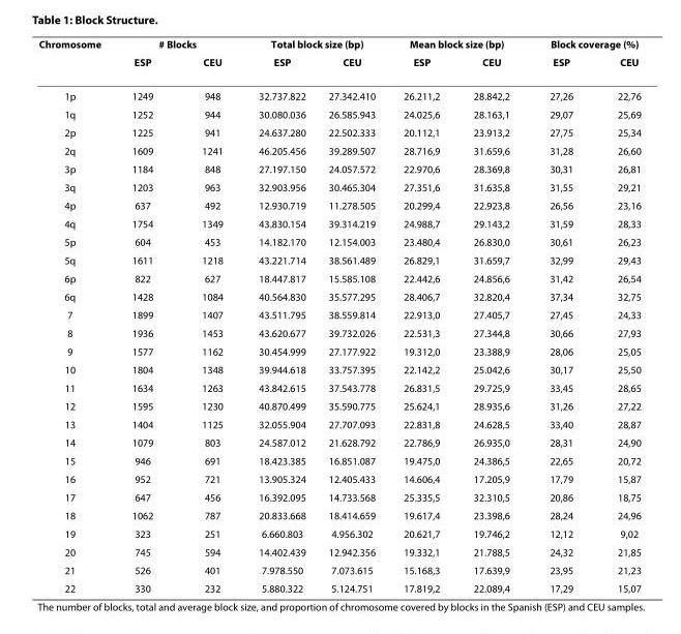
<table><thead><tr><td rowspan="2">Chromosome</td><td colspan="2"># Blocks</td><td colspan="2">Total block size (bp)</td><td colspan="2">Mean block size (bp)</td><td colspan="2">Block coverage (%)</td></tr><tr><td>ESP</td><td>CEU</td><td>ESP</td><td>CEU</td><td>ESP</td><td>CEU</td><td>ESP</td><td>CEU</td></tr></thead><tbody><tr><td>1p</td><td>1249</td><td>948</td><td>32.737.822</td><td>27.342.410</td><td>26.211,2</td><td>28.842,2</td><td>27,26</td><td>22,76</td></tr><tr><td>1q</td><td>1252</td><td>944</td><td>30.080.036</td><td>26.585.943</td><td>24.025,6</td><td>28.163,1</td><td>29,07</td><td>25,69</td></tr><tr><td>2p</td><td>1225</td><td>941</td><td>24.637.280</td><td>22.502.333</td><td>20.112,1</td><td>23.913,2</td><td>27,75</td><td>25,34</td></tr><tr><td>2q</td><td>1609</td><td>1241</td><td>46.205.456</td><td>39.289.507</td><td>28.716,9</td><td>31.659,6</td><td>31,28</td><td>26,60</td></tr><tr><td>3p</td><td>1184</td><td>848</td><td>27.197.150</td><td>24.057.572</td><td>22.970,6</td><td>28.369,8</td><td>30,31</td><td>26,81</td></tr><tr><td>3q</td><td>1203</td><td>963</td><td>32.903.956</td><td>30.465.304</td><td>27.351,6</td><td>31.635,8</td><td>31,55</td><td>29,21</td></tr><tr><td>4p</td><td>637</td><td>492</td><td>12.930.719</td><td>11.278.505</td><td>20.299,4</td><td>22.923,8</td><td>26,56</td><td>23,16</td></tr><tr><td>4q</td><td>1754</td><td>1349</td><td>43.830.154</td><td>39.314.219</td><td>24.988,7</td><td>29.143,2</td><td>31,59</td><td>28,33</td></tr><tr><td>5p</td><td>604</td><td>453</td><td>14.182.170</td><td>12.154.003</td><td>23.480,4</td><td>26.830,0</td><td>30,61</td><td>26,23</td></tr><tr><td>5q</td><td>1611</td><td>1218</td><td>43.221.714</td><td>38.561.489</td><td>26.829,1</td><td>31.659,7</td><td>32,99</td><td>29,43</td></tr><tr><td>6p</td><td>822</td><td>627</td><td>18.447.817</td><td>15.585.108</td><td>22.442,6</td><td>24.856,6</td><td>31,42</td><td>26,54</td></tr><tr><td>6q</td><td>1428</td><td>1084</td><td>40.564.830</td><td>35.577.295</td><td>28.406,7</td><td>32.820,4</td><td>37,34</td><td>32,75</td></tr><tr><td>7</td><td>1899</td><td>1407</td><td>43.511.795</td><td>38.559.814</td><td>22.913,0</td><td>27.405,7</td><td>27,45</td><td>24,33</td></tr><tr><td>8</td><td>1936</td><td>1453</td><td>43.620.677</td><td>39.732.026</td><td>22.531,3</td><td>27.344,8</td><td>30,66</td><td>27,93</td></tr><tr><td>9</td><td>1577</td><td>1162</td><td>30.454.999</td><td>27.177.922</td><td>19.312,0</td><td>23.388,9</td><td>28,06</td><td>25,05</td></tr><tr><td>10</td><td>1804</td><td>1348</td><td>39.944.618</td><td>33.757.395</td><td>22.142,2</td><td>25.042,6</td><td>30,17</td><td>25,50</td></tr><tr><td>11</td><td>1634</td><td>1263</td><td>43.842.615</td><td>37.543.778</td><td>26.831,5</td><td>29.725,9</td><td>33,45</td><td>28,65</td></tr><tr><td>12</td><td>1595</td><td>1230</td><td>40.870.499</td><td>35.590.775</td><td>25.624,1</td><td>28.935,6</td><td>31,26</td><td>27,22</td></tr><tr><td>13</td><td>1404</td><td>1125</td><td>32.055.904</td><td>27.707.093</td><td>22.831,8</td><td>24.628,5</td><td>33,40</td><td>28,87</td></tr><tr><td>14</td><td>1079</td><td>803</td><td>24.587.012</td><td>21.628.792</td><td>22.786,9</td><td>26.935,0</td><td>28,31</td><td>24,90</td></tr><tr><td>15</td><td>946</td><td>691</td><td>18.423.385</td><td>16.851.087</td><td>19.475,0</td><td>24.386,5</td><td>22,65</td><td>20,72</td></tr><tr><td>16</td><td>952</td><td>721</td><td>13.905.324</td><td>12.405.433</td><td>14.606,4</td><td>17.205,9</td><td>17,79</td><td>15,87</td></tr><tr><td>17</td><td>647</td><td>456</td><td>16.392.095</td><td>14.733.568</td><td>25.335,5</td><td>32.310,5</td><td>20,86</td><td>18,75</td></tr><tr><td>18</td><td>1062</td><td>787</td><td>20.833.668</td><td>18.414.659</td><td>19.617,4</td><td>23.398,6</td><td>28,24</td><td>24,96</td></tr><tr><td>19</td><td>323</td><td>251</td><td>6.660.803</td><td>4.956.302</td><td>20.621,7</td><td>19.746,2</td><td>12,12</td><td>9,02</td></tr><tr><td>20</td><td>745</td><td>594</td><td>14.402.439</td><td>12.942.356</td><td>19.332,1</td><td>21.788,5</td><td>24,32</td><td>21,85</td></tr><tr><td>21</td><td>526</td><td>401</td><td>7.978.550</td><td>7.073.615</td><td>15.168,3</td><td>17.639,9</td><td>23,95</td><td>21,23</td></tr><tr><td>22</td><td>330</td><td>232</td><td>5.880.322</td><td>5.124.751</td><td>17.819,2</td><td>22.089,4</td><td>17,29</td><td>15,07</td></tr></tbody></table>